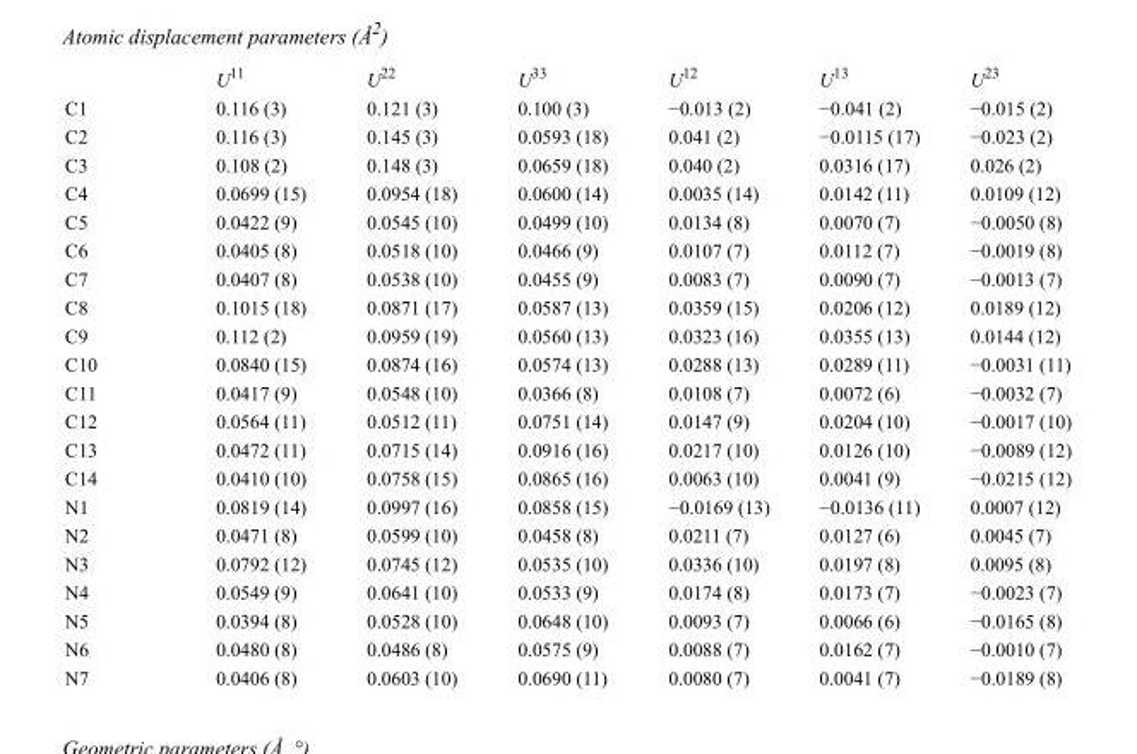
<table><thead><tr><td></td><td>U<sup>11</sup></td><td>U<sup>22</sup></td><td>U<sup>33</sup></td><td>U<sup>12</sup></td><td>U<sup>13</sup></td><td>U<sup>23</sup></td></tr></thead><tbody><tr><td>C1</td><td>0.116 (3)</td><td>0.121 (3)</td><td>0.100 (3)</td><td>−0.013 (2)</td><td>−0.041 (2)</td><td>−0.015 (2)</td></tr><tr><td>C2</td><td>0.116 (3)</td><td>0.145 (3)</td><td>0.0593 (18)</td><td>0.041 (2)</td><td>−0.0115 (17)</td><td>−0.023 (2)</td></tr><tr><td>C3</td><td>0.108 (2)</td><td>0.148 (3)</td><td>0.0659 (18)</td><td>0.040 (2)</td><td>0.0316 (17)</td><td>0.026 (2)</td></tr><tr><td>C4</td><td>0.0699 (15)</td><td>0.0954 (18)</td><td>0.0600 (14)</td><td>0.0035 (14)</td><td>0.0142 (11)</td><td>0.0109 (12)</td></tr><tr><td>C5</td><td>0.0422 (9)</td><td>0.0545 (10)</td><td>0.0499 (10)</td><td>0.0134 (8)</td><td>0.0070 (7)</td><td>−0.0050 (8)</td></tr><tr><td>C6</td><td>0.0405 (8)</td><td>0.0518 (10)</td><td>0.0466 (9)</td><td>0.0107 (7)</td><td>0.0112 (7)</td><td>−0.0019 (8)</td></tr><tr><td>C7</td><td>0.0407 (8)</td><td>0.0538 (10)</td><td>0.0455 (9)</td><td>0.0083 (7)</td><td>0.0090 (7)</td><td>−0.0013 (7)</td></tr><tr><td>C8</td><td>0.1015 (18)</td><td>0.0871 (17)</td><td>0.0587 (13)</td><td>0.0359 (15)</td><td>0.0206 (12)</td><td>0.0189 (12)</td></tr><tr><td>C9</td><td>0.112 (2)</td><td>0.0959 (19)</td><td>0.0560 (13)</td><td>0.0323 (16)</td><td>0.0355 (13)</td><td>0.0144 (12)</td></tr><tr><td>C10</td><td>0.0840 (15)</td><td>0.0874 (16)</td><td>0.0574 (13)</td><td>0.0288 (13)</td><td>0.0289 (11)</td><td>−0.0031 (11)</td></tr><tr><td>C11</td><td>0.0417 (9)</td><td>0.0548 (10)</td><td>0.0366 (8)</td><td>0.0108 (7)</td><td>0.0072 (6)</td><td>−0.0032 (7)</td></tr><tr><td>C12</td><td>0.0564 (11)</td><td>0.0512 (11)</td><td>0.0751 (14)</td><td>0.0147 (9)</td><td>0.0204 (10)</td><td>−0.0017 (10)</td></tr><tr><td>C13</td><td>0.0472 (11)</td><td>0.0715 (14)</td><td>0.0916 (16)</td><td>0.0217 (10)</td><td>0.0126 (10)</td><td>−0.0089 (12)</td></tr><tr><td>C14</td><td>0.0410 (10)</td><td>0.0758 (15)</td><td>0.0865 (16)</td><td>0.0063 (10)</td><td>0.0041 (9)</td><td>−0.0215 (12)</td></tr><tr><td>N1</td><td>0.0819 (14)</td><td>0.0997 (16)</td><td>0.0858 (15)</td><td>−0.0169 (13)</td><td>−0.0136 (11)</td><td>0.0007 (12)</td></tr><tr><td>N2</td><td>0.0471 (8)</td><td>0.0599 (10)</td><td>0.0458 (8)</td><td>0.0211 (7)</td><td>0.0127 (6)</td><td>0.0045 (7)</td></tr><tr><td>N3</td><td>0.0792 (12)</td><td>0.0745 (12)</td><td>0.0535 (10)</td><td>0.0336 (10)</td><td>0.0197 (8)</td><td>0.0095 (8)</td></tr><tr><td>N4</td><td>0.0549 (9)</td><td>0.0641 (10)</td><td>0.0533 (9)</td><td>0.0174 (8)</td><td>0.0173 (7)</td><td>−0.0023 (7)</td></tr><tr><td>N5</td><td>0.0394 (8)</td><td>0.0528 (10)</td><td>0.0648 (10)</td><td>0.0093 (7)</td><td>0.0066 (6)</td><td>−0.0165 (8)</td></tr><tr><td>N6</td><td>0.0480 (8)</td><td>0.0486 (8)</td><td>0.0575 (9)</td><td>0.0088 (7)</td><td>0.0162 (7)</td><td>−0.0010 (7)</td></tr><tr><td>N7</td><td>0.0406 (8)</td><td>0.0603 (10)</td><td>0.0690 (11)</td><td>0.0080 (7)</td><td>0.0041 (7)</td><td>−0.0189 (8)</td></tr></tbody></table>